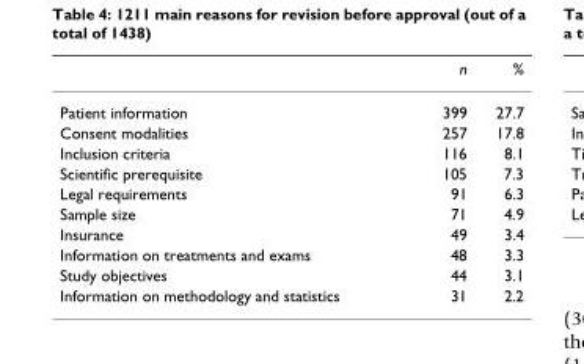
<table><thead><tr><td></td><td>n</td><td>%</td></tr></thead><tbody><tr><td>Patient information</td><td>399</td><td>27.7</td></tr><tr><td>Consent modalities</td><td>257</td><td>17.8</td></tr><tr><td>Inclusion criteria</td><td>116</td><td>8.1</td></tr><tr><td>Scientific prerequisite</td><td>105</td><td>7.3</td></tr><tr><td>Legal requirements</td><td>91</td><td>6.3</td></tr><tr><td>Sample size</td><td>71</td><td>4.9</td></tr><tr><td>Insurance</td><td>49</td><td>3.4</td></tr><tr><td>Information on treatments and exams</td><td>48</td><td>3.3</td></tr><tr><td>Study objectives</td><td>44</td><td>3.1</td></tr><tr><td>Information on methodology and statistics</td><td>31</td><td>2.2</td></tr></tbody></table>